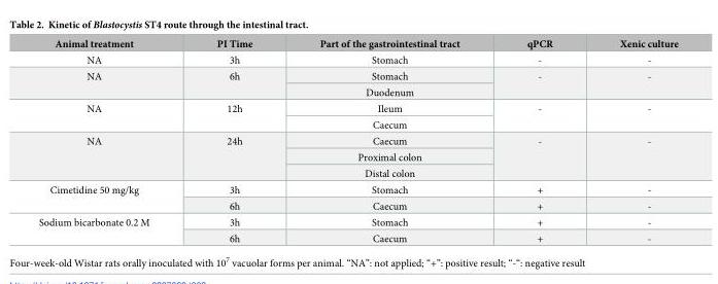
<table><thead><tr><td>Animal treatment</td><td>PI Time</td><td>Part of the gastrointestinal tract</td><td>qPCR</td><td>Xenic culture</td></tr></thead><tbody><tr><td>NA</td><td>3h</td><td>Stomach</td><td>-</td><td>-</td></tr><tr><td rowspan="2">NA</td><td rowspan="2">6h</td><td>Stomach</td><td rowspan="2">-</td><td rowspan="2">-</td></tr><tr><td>Duodenum</td></tr><tr><td rowspan="2">NA</td><td rowspan="2">12h</td><td>Ileum</td><td rowspan="2">-</td><td rowspan="2">-</td></tr><tr><td>Caecum</td></tr><tr><td rowspan="3">NA</td><td rowspan="3">24h</td><td>Caecum</td><td rowspan="3">-</td><td rowspan="3">-</td></tr><tr><td>Proximal colon</td></tr><tr><td>Distal colon</td></tr><tr><td rowspan="2">Cimetidine 50 mg/kg</td><td>3h</td><td>Stomach</td><td>+</td><td>-</td></tr><tr><td>6h</td><td>Caecum</td><td>+</td><td>-</td></tr><tr><td rowspan="2">Sodium bicarbonate 0.2 M</td><td>3h</td><td>Stomach</td><td>+</td><td>-</td></tr><tr><td>6h</td><td>Caecum</td><td>+</td><td>-</td></tr></tbody></table>